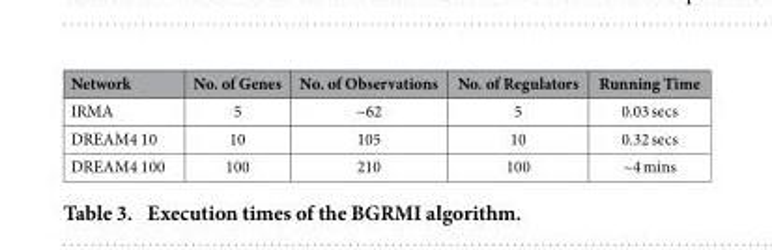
<table><thead><tr><td>Network</td><td>No. of Genes</td><td>No. of Observations</td><td>No. of Regulators</td><td>Running Time</td></tr></thead><tbody><tr><td>IRMA</td><td>5</td><td>~62</td><td>5</td><td>0.03 secs</td></tr><tr><td>DREAM4 10</td><td>10</td><td>105</td><td>10</td><td>0.32 secs</td></tr><tr><td>DREAM4 100</td><td>100</td><td>210</td><td>100</td><td>~4 mins</td></tr></tbody></table>